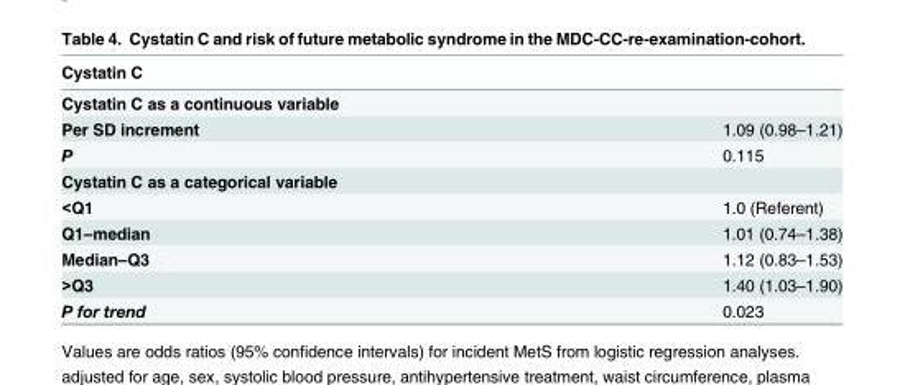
<table><thead><tr><td rowspan="2" colspan="2">Cystatin C Cystatin C as a continuous variable</td></tr><tr></tr><tr><td>Per SD increment</td><td>1.09 (0.98–1.21)</td></tr></thead><tbody><tr><td>P</td><td>0.115</td></tr><tr><td colspan="2">Cystatin C as a categorical variable</td></tr><tr><td>&lt;Q1</td><td>1.0 (Referent)</td></tr><tr><td>Q1–median</td><td>1.01 (0.74–1.38)</td></tr><tr><td>Median–Q3</td><td>1.12 (0.83–1.53)</td></tr><tr><td>&gt;Q3</td><td>1.40 (1.03–1.90)</td></tr><tr><td>P for trend</td><td>0.023</td></tr></tbody></table>